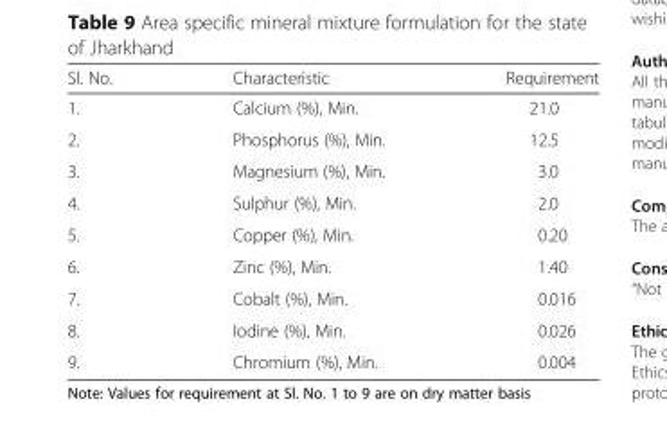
<table><thead><tr><td>Sl. No.</td><td>Characteristic</td><td>Requirement</td></tr></thead><tbody><tr><td>1.</td><td>Calcium (%), Min.</td><td>21.0</td></tr><tr><td>2.</td><td>Phosphorus (%), Min.</td><td>12.5</td></tr><tr><td>3.</td><td>Magnesium (%), Min.</td><td>3.0</td></tr><tr><td>4.</td><td>Sulphur (%), Min.</td><td>2.0</td></tr><tr><td>5.</td><td>Copper (%), Min.</td><td>0.20</td></tr><tr><td>6.</td><td>Zinc (%), Min.</td><td>1.40</td></tr><tr><td>7.</td><td>Cobalt (%), Min.</td><td>0.016</td></tr><tr><td>8.</td><td>Iodine (%), Min.</td><td>0.026</td></tr><tr><td>9.</td><td>Chromium (%), Min.</td><td>0.004</td></tr></tbody></table>